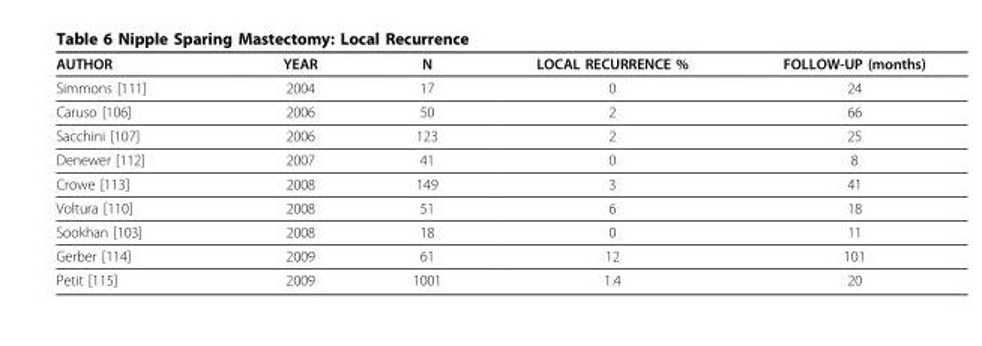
<table><thead><tr><td>AUTHOR</td><td>YEAR</td><td>N</td><td>LOCAL RECURRENCE %</td><td>FOLLOW-UP (months)</td></tr></thead><tbody><tr><td>Simmons [111]</td><td>2004</td><td>17</td><td>0</td><td>24</td></tr><tr><td>Caruso [106]</td><td>2006</td><td>50</td><td>2</td><td>66</td></tr><tr><td>Sacchini [107]</td><td>2006</td><td>123</td><td>2</td><td>25</td></tr><tr><td>Denewer [112]</td><td>2007</td><td>41</td><td>0</td><td>8</td></tr><tr><td>Crowe [113]</td><td>2008</td><td>149</td><td>3</td><td>41</td></tr><tr><td>Voltura [110]</td><td>2008</td><td>51</td><td>6</td><td>18</td></tr><tr><td>Sookhan [103]</td><td>2008</td><td>18</td><td>0</td><td>11</td></tr><tr><td>Gerber [114]</td><td>2009</td><td>61</td><td>12</td><td>101</td></tr><tr><td>Petit [115]</td><td>2009</td><td>1001</td><td>1.4</td><td>20</td></tr></tbody></table>